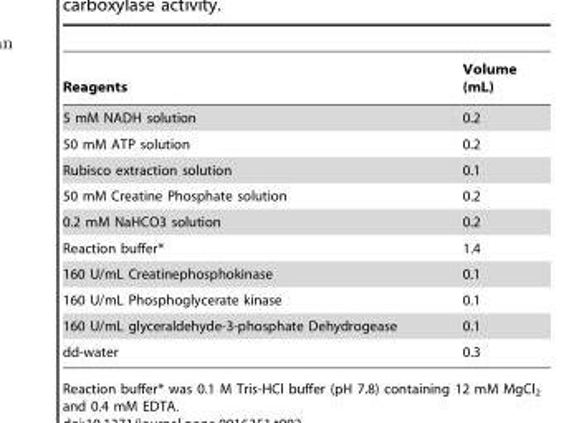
<table><thead><tr><td>Reagents</td><td>Volume (mL)</td></tr></thead><tbody><tr><td>5 mM NADH solution</td><td>0.2</td></tr><tr><td>50 mM ATP solution</td><td>0.2</td></tr><tr><td>Rubisco extraction solution</td><td>0.1</td></tr><tr><td>50 mM Creatine Phosphate solution</td><td>0.2</td></tr><tr><td>0.2 mM NaHCO3 solution</td><td>0.2</td></tr><tr><td>Reaction buffer*</td><td>1.4</td></tr><tr><td>160 U/mL Creatinephosphokinase</td><td>0.1</td></tr><tr><td>160 U/mL Phosphoglycerate kinase</td><td>0.1</td></tr><tr><td>160 U/mL glyceraldehyde-3-phosphate Dehydrogease</td><td>0.1</td></tr><tr><td>dd-water</td><td>0.3</td></tr></tbody></table>